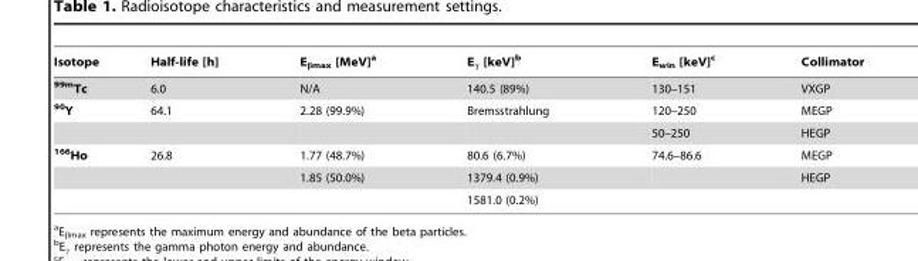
<table><thead><tr><td>Isotope</td><td>Half-life [h]</td><td>E<sub>βmax</sub> [MeV]<sup>a</sup></td><td>E<sub>γ</sub> [keV]<sup>b</sup></td><td>E<sub>win</sub> [keV]<sup>c</sup></td><td>Collimator</td></tr></thead><tbody><tr><td><sup>99m</sup>Tc</td><td>6.0</td><td>N/A</td><td>140.5 (89%)</td><td>130–151</td><td>VXGP</td></tr><tr><td rowspan="2"><sup>90</sup>Y</td><td>64.1</td><td>2.28 (99.9%)</td><td>Bremsstrahlung</td><td>120–250</td><td>MEGP</td></tr><tr><td></td><td></td><td></td><td>50–250</td><td>HEGP</td></tr><tr><td rowspan="3"><sup>166</sup>Ho</td><td>26.8</td><td>1.77 (48.7%)</td><td>80.6 (6.7%)</td><td>74.6–86.6</td><td>MEGP</td></tr><tr><td></td><td>1.85 (50.0%)</td><td>1379.4 (0.9%)</td><td></td><td>HEGP</td></tr><tr><td></td><td></td><td>1581.0 (0.2%)</td><td></td><td></td></tr></tbody></table>